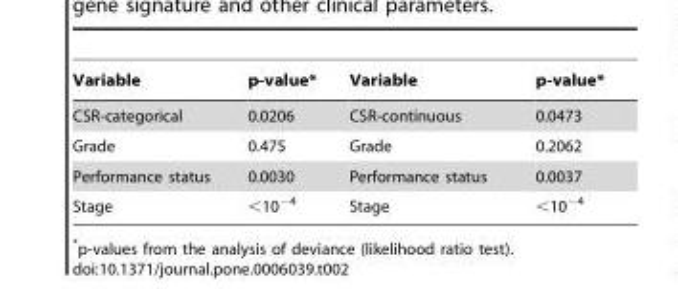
<table><thead><tr><td>Variable</td><td>p-value*</td><td>Variable</td><td>p-value*</td></tr></thead><tbody><tr><td>CSR-categorical</td><td>0.0206</td><td>CSR-continuous</td><td>0.0473</td></tr><tr><td>Grade</td><td>0.475</td><td>Grade</td><td>0.2062</td></tr><tr><td>Performance status</td><td>0.0030</td><td>Performance status</td><td>0.0037</td></tr><tr><td>Stage</td><td>&lt;10<sup>−4</sup></td><td>Stage</td><td>&lt;10<sup>−4</sup></td></tr></tbody></table>